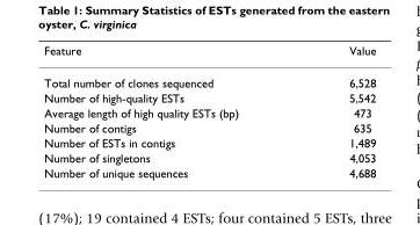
<table><thead><tr><td>Feature</td><td>Value</td></tr></thead><tbody><tr><td>Total number of clones sequenced</td><td>6,528</td></tr><tr><td>Number of high-quality ESTs</td><td>5,542</td></tr><tr><td>Average length of high quality ESTs (bp)</td><td>473</td></tr><tr><td>Number of contigs</td><td>635</td></tr><tr><td>Number of ESTs in contigs</td><td>1,489</td></tr><tr><td>Number of singletons</td><td>4,053</td></tr><tr><td>Number of unique sequences</td><td>4,688</td></tr></tbody></table>